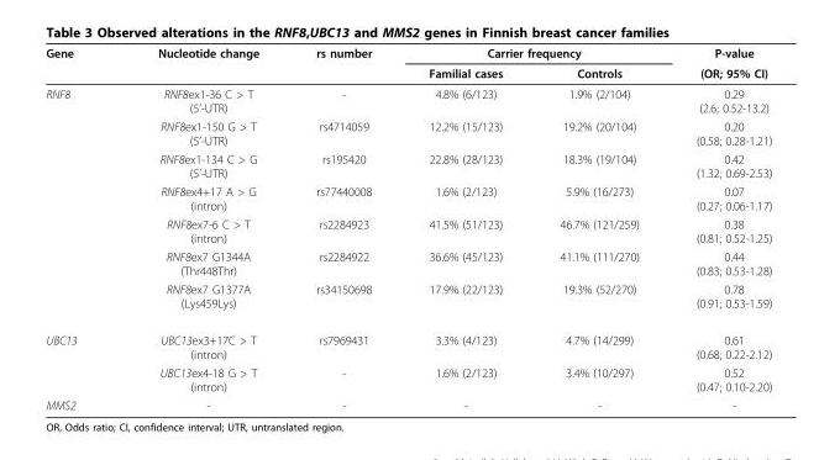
<table><thead><tr><td rowspan="2">Gene</td><td rowspan="2">Nucleotide change</td><td rowspan="2">rs number</td><td colspan="2">Carrier frequency</td><td rowspan="2">P-value (OR; 95% CI)</td></tr><tr><td>Familial cases</td><td>Controls</td></tr></thead><tbody><tr><td rowspan="7">RNF8</td><td>RNF8ex1-36 C &gt; T (5’-UTR)</td><td>-</td><td>4.8% (6/123)</td><td>1.9% (2/104)</td><td>0.29 (2.6; 0.52-13.2)</td></tr><tr><td>RNF8ex1-150 G &gt; T (5’-UTR)</td><td>rs4714059</td><td>12.2% (15/123)</td><td>19.2% (20/104)</td><td>0.20 (0.58; 0.28-1.21)</td></tr><tr><td>RNF8ex1-134 C &gt; G (5’-UTR)</td><td>rs195420</td><td>22.8% (28/123)</td><td>18.3% (19/104)</td><td>0.42 (1.32; 0.69-2.53)</td></tr><tr><td>RNF8ex4+17 A &gt; G (intron)</td><td>rs77440008</td><td>1.6% (2/123)</td><td>5.9% (16/273)</td><td>0.07 (0.27; 0.06-1.17)</td></tr><tr><td>RNF8ex7-6 C &gt; T (intron)</td><td>rs2284923</td><td>41.5% (51/123)</td><td>46.7% (121/259)</td><td>0.38 (0.81; 0.52-1.25)</td></tr><tr><td>RNF8ex7 G1344A (Thr448Thr)</td><td>rs2284922</td><td>36.6% (45/123)</td><td>41.1% (111/270)</td><td>0.44 (0.83; 0.53-1.28)</td></tr><tr><td>RNF8ex7 G1377A (Lys459Lys)</td><td>rs34150698</td><td>17.9% (22/123)</td><td>19.3% (52/270)</td><td>0.78 (0.91; 0.53-1.59)</td></tr><tr><td rowspan="2">UBC13</td><td>UBC13ex3+17C &gt; T (intron)</td><td>rs7969431</td><td>3.3% (4/123)</td><td>4.7% (14/299)</td><td>0.61 (0.68; 0.22-2.12)</td></tr><tr><td>UBC13ex4-18 G &gt; T (intron)</td><td>-</td><td>1.6% (2/123)</td><td>3.4% (10/297)</td><td>0.52 (0.47; 0.10-2.20)</td></tr><tr><td>MMS2</td><td>-</td><td>-</td><td>-</td><td>-</td><td>-</td></tr></tbody></table>